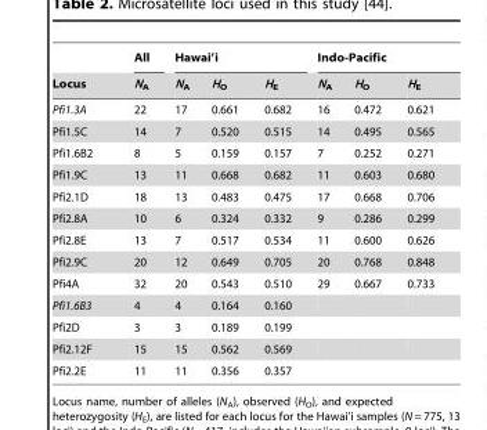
<table><thead><tr><td rowspan="2">Locus</td><td rowspan="2">All N<sub>A</sub></td><td colspan="3">Hawai’i</td><td colspan="3">Indo-Pacific</td></tr><tr><td>N<sub>A</sub></td><td>H<sub>O</sub></td><td>H<sub>E</sub></td><td>N<sub>A</sub></td><td>H<sub>O</sub></td><td>H<sub>E</sub></td></tr></thead><tbody><tr><td>Pfi1.3A</td><td>22</td><td>17</td><td>0.661</td><td>0.682</td><td>16</td><td>0.472</td><td>0.621</td></tr><tr><td>Pfi1.5C</td><td>14</td><td>7</td><td>0.520</td><td>0.515</td><td>14</td><td>0.495</td><td>0.565</td></tr><tr><td>Pfi1.6B2</td><td>8</td><td>5</td><td>0.159</td><td>0.157</td><td>7</td><td>0.252</td><td>0.271</td></tr><tr><td>Pfi1.9C</td><td>13</td><td>11</td><td>0.668</td><td>0.682</td><td>11</td><td>0.603</td><td>0.680</td></tr><tr><td>Pfi2.1D</td><td>18</td><td>13</td><td>0.483</td><td>0.475</td><td>17</td><td>0.668</td><td>0.706</td></tr><tr><td>Pfi2.8A</td><td>10</td><td>6</td><td>0.324</td><td>0.332</td><td>9</td><td>0.286</td><td>0.299</td></tr><tr><td>Pfi2.8E</td><td>13</td><td>7</td><td>0.517</td><td>0.534</td><td>11</td><td>0.600</td><td>0.626</td></tr><tr><td>Pfi2.9C</td><td>20</td><td>12</td><td>0.649</td><td>0.705</td><td>20</td><td>0.768</td><td>0.848</td></tr><tr><td>Pfi4A</td><td>32</td><td>20</td><td>0.543</td><td>0.510</td><td>29</td><td>0.667</td><td>0.733</td></tr><tr><td>Pfi1.6B3</td><td>4</td><td>4</td><td>0.164</td><td>0.160</td><td></td><td></td><td></td></tr><tr><td>Pfi2D</td><td>3</td><td>3</td><td>0.189</td><td>0.199</td><td></td><td></td><td></td></tr><tr><td>Pfi2.12F</td><td>15</td><td>15</td><td>0.562</td><td>0.569</td><td></td><td></td><td></td></tr><tr><td>Pfi2.2E</td><td>11</td><td>11</td><td>0.356</td><td>0.357</td><td></td><td></td><td></td></tr></tbody></table>